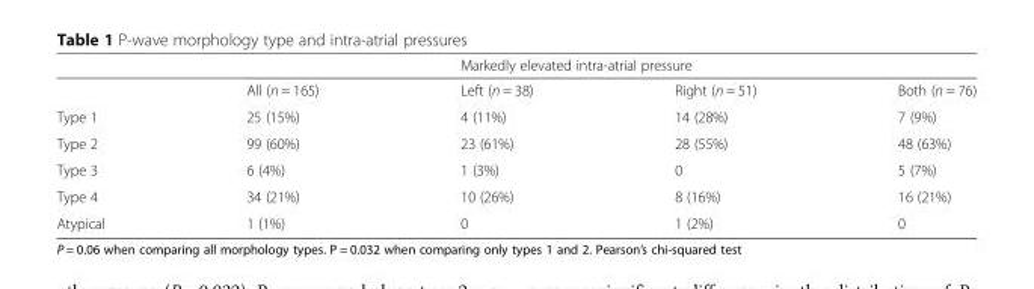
<table><thead><tr><td rowspan="2"></td><td rowspan="2">All (n = 165)</td><td colspan="3">Markedly elevated intra-atrial pressure</td></tr><tr><td>Left (n = 38)</td><td>Right (n = 51)</td><td>Both (n = 76)</td></tr></thead><tbody><tr><td>Type 1</td><td>25 (15%)</td><td>4 (11%)</td><td>14 (28%)</td><td>7 (9%)</td></tr><tr><td>Type 2</td><td>99 (60%)</td><td>23 (61%)</td><td>28 (55%)</td><td>48 (63%)</td></tr><tr><td>Type 3</td><td>6 (4%)</td><td>1 (3%)</td><td>0</td><td>5 (7%)</td></tr><tr><td>Type 4</td><td>34 (21%)</td><td>10 (26%)</td><td>8 (16%)</td><td>16 (21%)</td></tr><tr><td>Atypical</td><td>1 (1%)</td><td>0</td><td>1 (2%)</td><td>0</td></tr></tbody></table>